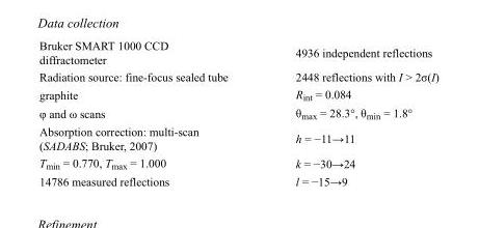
<table><tbody><tr><td>Bruker SMART 1000 CCD diffractometer</td><td>4936 independent reflections</td></tr><tr><td>Radiation source: fine-focus sealed tube</td><td>2448 reflections with I &gt; 2σ(I)</td></tr><tr><td>graphite</td><td>R<sub>int</sub> = 0.084</td></tr><tr><td>φ and ω scans</td><td>θ<sub>max</sub> = 28.3°, θ<sub>min</sub> = 1.8°</td></tr><tr><td>Absorption correction: multi-scan (SADABS; Bruker, 2007)</td><td>h = −11→11</td></tr><tr><td>T<sub>min</sub> = 0.770, T<sub>max</sub> = 1.000</td><td>k = −30→24</td></tr><tr><td>14786 measured reflections</td><td>l = −15→9</td></tr></tbody></table>